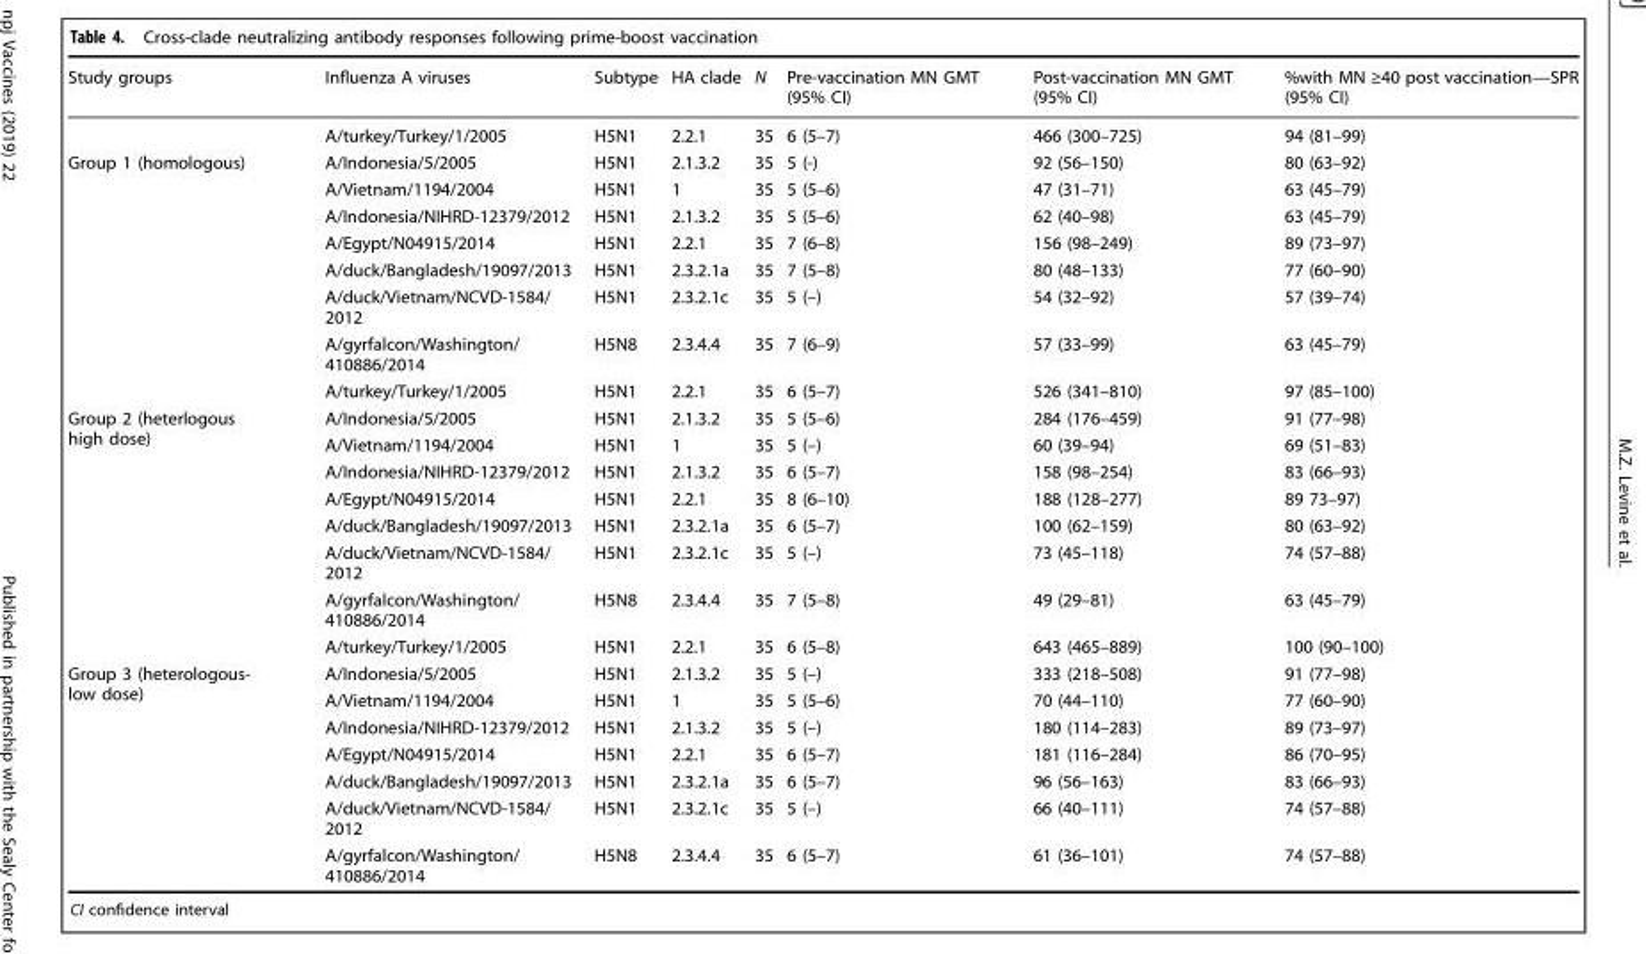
<table><thead><tr><td>Study groups</td><td>Influenza A viruses</td><td>Subtype</td><td>HA clade</td><td>N</td><td>Pre-vaccination MN GMT (95% CI)</td><td>Post-vaccination MN GMT (95% CI)</td><td>%with MN ≥40 post vaccination—SPR (95% CI)</td></tr></thead><tbody><tr><td></td><td>A/turkey/Turkey/1/2005</td><td>H5N1</td><td>2.2.1</td><td>35</td><td>6 (5–7)</td><td>466 (300–725)</td><td>94 (81–99)</td></tr><tr><td rowspan="8">Group 1 (homologous)</td><td>A/Indonesia/5/2005</td><td>H5N1</td><td>2.1.3.2</td><td>35</td><td>5 (-)</td><td>92 (56–150)</td><td>80 (63–92)</td></tr><tr><td>A/Vietnam/1194/2004</td><td>H5N1</td><td>1</td><td>35</td><td>5 (5–6)</td><td>47 (31–71)</td><td>63 (45–79)</td></tr><tr><td>A/Indonesia/NIHRD-12379/2012</td><td>H5N1</td><td>2.1.3.2</td><td>35</td><td>5 (5–6)</td><td>62 (40–98)</td><td>63 (45–79)</td></tr><tr><td>A/Egypt/N04915/2014</td><td>H5N1</td><td>2.2.1</td><td>35</td><td>7 (6–8)</td><td>156 (98–249)</td><td>89 (73–97)</td></tr><tr><td>A/duck/Bangladesh/19097/2013</td><td>H5N1</td><td>2.3.2.1a</td><td>35</td><td>7 (5–8)</td><td>80 (48–133)</td><td>77 (60–90)</td></tr><tr><td>A/duck/Vietnam/NCVD-1584/ 2012</td><td>H5N1</td><td>2.3.2.1c</td><td>35</td><td>5 (–)</td><td>54 (32–92)</td><td>57 (39–74)</td></tr><tr><td>A/gyrfalcon/Washington/ 410886/2014</td><td>H5N8</td><td>2.3.4.4</td><td>35</td><td>7 (6–9)</td><td>57 (33–99)</td><td>63 (45–79)</td></tr><tr><td>A/turkey/Turkey/1/2005</td><td>H5N1</td><td>2.2.1</td><td>35</td><td>6 (5–7)</td><td>526 (341–810)</td><td>97 (85–100)</td></tr><tr><td rowspan="8">Group 2 (heterlogous high dose)</td><td>A/Indonesia/5/2005</td><td>H5N1</td><td>2.1.3.2</td><td>35</td><td>5 (5–6)</td><td>284 (176–459)</td><td>91 (77–98)</td></tr><tr><td>A/Vietnam/1194/2004</td><td>H5N1</td><td>1</td><td>35</td><td>5 (–)</td><td>60 (39–94)</td><td>69 (51–83)</td></tr><tr><td>A/Indonesia/NIHRD-12379/2012</td><td>H5N1</td><td>2.1.3.2</td><td>35</td><td>6 (5–7)</td><td>158 (98–254)</td><td>83 (66–93)</td></tr><tr><td>A/Egypt/N04915/2014</td><td>H5N1</td><td>2.2.1</td><td>35</td><td>8 (6–10)</td><td>188 (128–277)</td><td>89 73–97)</td></tr><tr><td>A/duck/Bangladesh/19097/2013</td><td>H5N1</td><td>2.3.2.1a</td><td>35</td><td>6 (5–7)</td><td>100 (62–159)</td><td>80 (63–92)</td></tr><tr><td>A/duck/Vietnam/NCVD-1584/ 2012</td><td>H5N1</td><td>2.3.2.1c</td><td>35</td><td>5 (–)</td><td>73 (45–118)</td><td>74 (57–88)</td></tr><tr><td>A/gyrfalcon/Washington/ 410886/2014</td><td>H5N8</td><td>2.3.4.4</td><td>35</td><td>7 (5–8)</td><td>49 (29–81)</td><td>63 (45–79)</td></tr><tr><td>A/turkey/Turkey/1/2005</td><td>H5N1</td><td>2.2.1</td><td>35</td><td>6 (5–8)</td><td>643 (465–889)</td><td>100 (90–100)</td></tr><tr><td rowspan="7">Group 3 (heterologous- low dose)</td><td>A/Indonesia/5/2005</td><td>H5N1</td><td>2.1.3.2</td><td>35</td><td>5 (–)</td><td>333 (218–508)</td><td>91 (77–98)</td></tr><tr><td>A/Vietnam/1194/2004</td><td>H5N1</td><td>1</td><td>35</td><td>5 (5–6)</td><td>70 (44–110)</td><td>77 (60–90)</td></tr><tr><td>A/Indonesia/NIHRD-12379/2012</td><td>H5N1</td><td>2.1.3.2</td><td>35</td><td>5 (–)</td><td>180 (114–283)</td><td>89 (73–97)</td></tr><tr><td>A/Egypt/N04915/2014</td><td>H5N1</td><td>2.2.1</td><td>35</td><td>6 (5–7)</td><td>181 (116–284)</td><td>86 (70–95)</td></tr><tr><td>A/duck/Bangladesh/19097/2013</td><td>H5N1</td><td>2.3.2.1a</td><td>35</td><td>6 (5–7)</td><td>96 (56–163)</td><td>83 (66–93)</td></tr><tr><td>A/duck/Vietnam/NCVD-1584/ 2012</td><td>H5N1</td><td>2.3.2.1c</td><td>35</td><td>5 (–)</td><td>66 (40–111)</td><td>74 (57–88)</td></tr><tr><td>A/gyrfalcon/Washington/ 410886/2014</td><td>H5N8</td><td>2.3.4.4</td><td>35</td><td>6 (5–7)</td><td>61 (36–101)</td><td>74 (57–88)</td></tr></tbody></table>